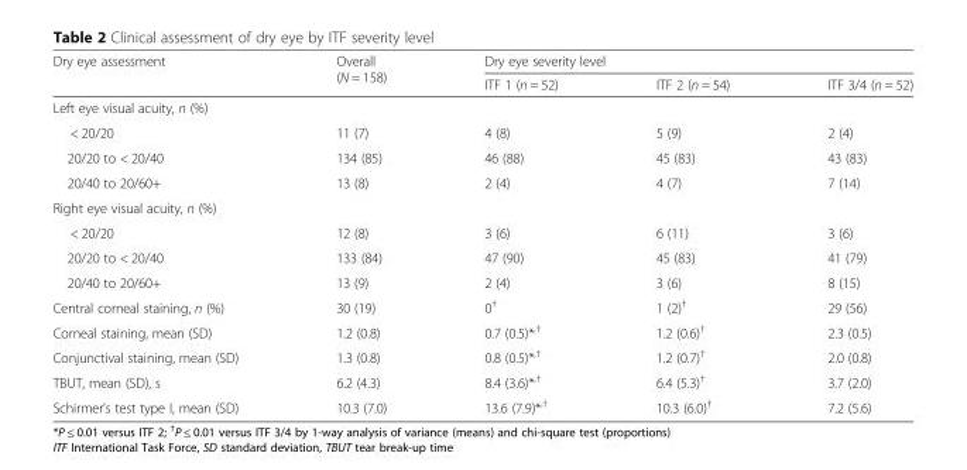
<table><thead><tr><td rowspan="2">Dry eye assessment</td><td rowspan="2">Overall (N = 158)</td><td colspan="3">Dry eye severity level</td></tr><tr><td>ITF 1 (n = 52)</td><td>ITF 2 (n = 54)</td><td>ITF 3/4 (n = 52)</td></tr></thead><tbody><tr><td colspan="5">Left eye visual acuity, n (%)</td></tr><tr><td>&lt; 20/20</td><td>11 (7)</td><td>4 (8)</td><td>5 (9)</td><td>2 (4)</td></tr><tr><td>20/20 to &lt; 20/40</td><td>134 (85)</td><td>46 (88)</td><td>45 (83)</td><td>43 (83)</td></tr><tr><td>20/40 to 20/60+</td><td>13 (8)</td><td>2 (4)</td><td>4 (7)</td><td>7 (14)</td></tr><tr><td colspan="5">Right eye visual acuity, n (%)</td></tr><tr><td>&lt; 20/20</td><td>12 (8)</td><td>3 (6)</td><td>6 (11)</td><td>3 (6)</td></tr><tr><td>20/20 to &lt; 20/40</td><td>133 (84)</td><td>47 (90)</td><td>45 (83)</td><td>41 (79)</td></tr><tr><td>20/40 to 20/60+</td><td>13 (9)</td><td>2 (4)</td><td>3 (6)</td><td>8 (15)</td></tr><tr><td>Central corneal staining, n (%)</td><td>30 (19)</td><td>0<sup>†</sup></td><td>1 (2)<sup>†</sup></td><td>29 (56)</td></tr><tr><td>Corneal staining, mean (SD)</td><td>1.2 (0.8)</td><td>0.7 (0.5)*<sup>,†</sup></td><td>1.2 (0.6)<sup>†</sup></td><td>2.3 (0.5)</td></tr><tr><td>Conjunctival staining, mean (SD)</td><td>1.3 (0.8)</td><td>0.8 (0.5)*<sup>,†</sup></td><td>1.2 (0.7)<sup>†</sup></td><td>2.0 (0.8)</td></tr><tr><td>TBUT, mean (SD), s</td><td>6.2 (4.3)</td><td>8.4 (3.6)*<sup>,†</sup></td><td>6.4 (5.3)<sup>†</sup></td><td>3.7 (2.0)</td></tr><tr><td>Schirmer’s test type I, mean (SD)</td><td>10.3 (7.0)</td><td>13.6 (7.9)*<sup>,†</sup></td><td>10.3 (6.0)<sup>†</sup></td><td>7.2 (5.6)</td></tr></tbody></table>